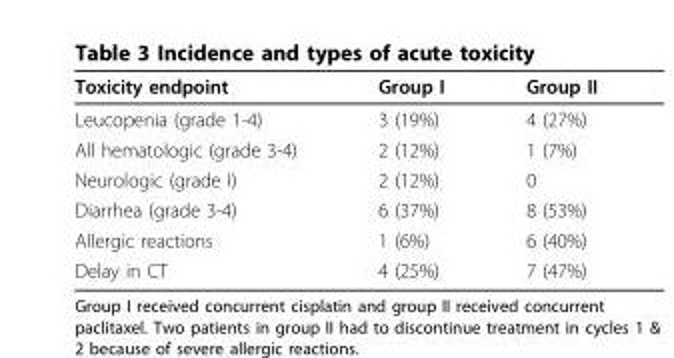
<table><thead><tr><td>Toxicity endpoint</td><td>Group I</td><td>Group II</td></tr></thead><tbody><tr><td>Leucopenia (grade 1-4)</td><td>3 (19%)</td><td>4 (27%)</td></tr><tr><td>All hematologic (grade 3-4)</td><td>2 (12%)</td><td>1 (7%)</td></tr><tr><td>Neurologic (grade I)</td><td>2 (12%)</td><td>0</td></tr><tr><td>Diarrhea (grade 3-4)</td><td>6 (37%)</td><td>8 (53%)</td></tr><tr><td>Allergic reactions</td><td>1 (6%)</td><td>6 (40%)</td></tr><tr><td>Delay in CT</td><td>4 (25%)</td><td>7 (47%)</td></tr></tbody></table>